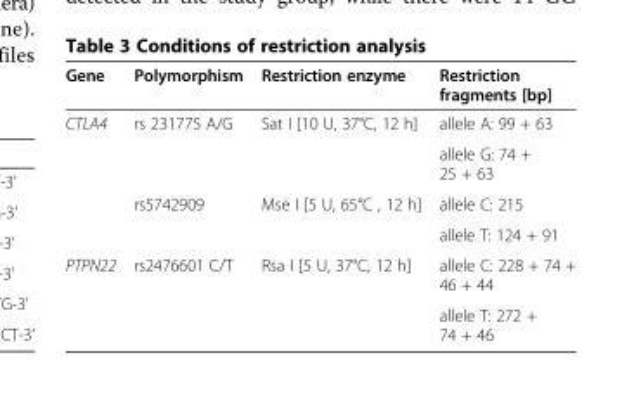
<table><thead><tr><td>Gene</td><td>Polymorphism</td><td>Restriction enzyme</td><td>Restriction fragments [bp]</td></tr></thead><tbody><tr><td rowspan="4">CTLA4</td><td rowspan="2">rs 231775 A/G</td><td rowspan="2">Sat I [10 U, 37°C, 12 h]</td><td>allele A: 99 + 63</td></tr><tr><td>allele G: 74 + 25 + 63</td></tr><tr><td rowspan="2">rs5742909</td><td rowspan="2">Mse I [5 U, 65°C , 12 h]</td><td>allele C: 215</td></tr><tr><td>allele T: 124 + 91</td></tr><tr><td rowspan="2">PTPN22</td><td rowspan="2">rs2476601 C/T</td><td rowspan="2">Rsa I [5 U, 37°C, 12 h]</td><td>allele C: 228 + 74 + 46 + 44</td></tr><tr><td>allele T: 272 + 74 + 46</td></tr></tbody></table>